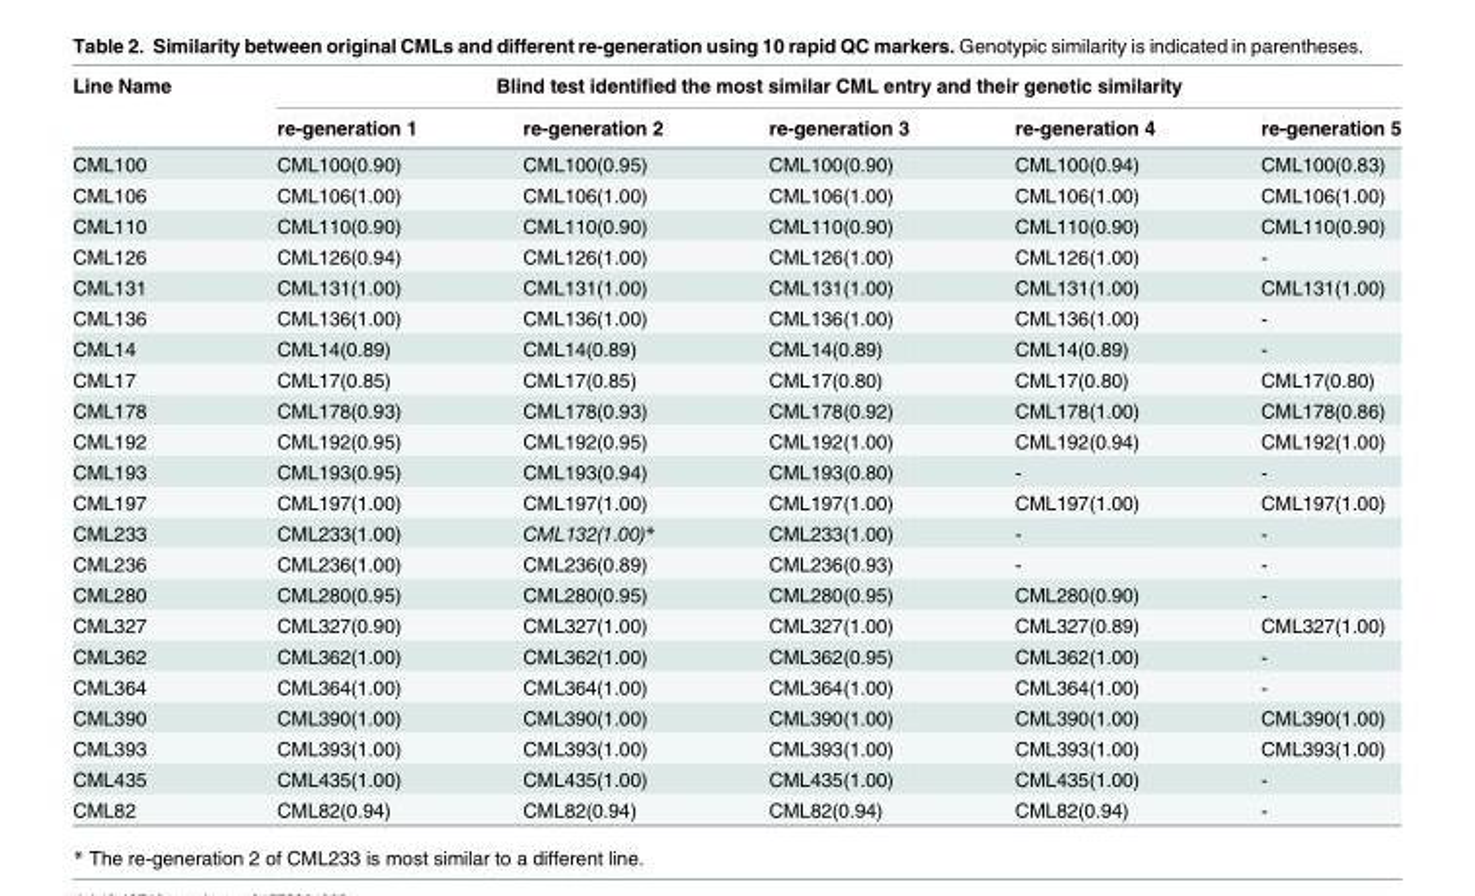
<table><thead><tr><td rowspan="2">Line Name</td><td colspan="5">Blind test identified the most similar CML entry and their genetic similarity</td></tr><tr><td>re-generation 1</td><td>re-generation 2</td><td>re-generation 3</td><td>re-generation 4</td><td>re-generation 5</td></tr></thead><tbody><tr><td>CML100</td><td>CML100(0.90)</td><td>CML100(0.95)</td><td>CML100(0.90)</td><td>CML100(0.94)</td><td>CML100(0.83)</td></tr><tr><td>CML106</td><td>CML106(1.00)</td><td>CML106(1.00)</td><td>CML106(1.00)</td><td>CML106(1.00)</td><td>CML106(1.00)</td></tr><tr><td>CML110</td><td>CML110(0.90)</td><td>CML110(0.90)</td><td>CML110(0.90)</td><td>CML110(0.90)</td><td>CML110(0.90)</td></tr><tr><td>CML126</td><td>CML126(0.94)</td><td>CML126(1.00)</td><td>CML126(1.00)</td><td>CML126(1.00)</td><td>-</td></tr><tr><td>CML131</td><td>CML131(1.00)</td><td>CML131(1.00)</td><td>CML131(1.00)</td><td>CML131(1.00)</td><td>CML131(1.00)</td></tr><tr><td>CML136</td><td>CML136(1.00)</td><td>CML136(1.00)</td><td>CML136(1.00)</td><td>CML136(1.00)</td><td>-</td></tr><tr><td>CML14</td><td>CML14(0.89)</td><td>CML14(0.89)</td><td>CML14(0.89)</td><td>CML14(0.89)</td><td>-</td></tr><tr><td>CML17</td><td>CML17(0.85)</td><td>CML17(0.85)</td><td>CML17(0.80)</td><td>CML17(0.80)</td><td>CML17(0.80)</td></tr><tr><td>CML178</td><td>CML178(0.93)</td><td>CML178(0.93)</td><td>CML178(0.92)</td><td>CML178(1.00)</td><td>CML178(0.86)</td></tr><tr><td>CML192</td><td>CML192(0.95)</td><td>CML192(0.95)</td><td>CML192(1.00)</td><td>CML192(0.94)</td><td>CML192(1.00)</td></tr><tr><td>CML193</td><td>CML193(0.95)</td><td>CML193(0.94)</td><td>CML193(0.80)</td><td>-</td><td>-</td></tr><tr><td>CML197</td><td>CML197(1.00)</td><td>CML197(1.00)</td><td>CML197(1.00)</td><td>CML197(1.00)</td><td>CML197(1.00)</td></tr><tr><td>CML233</td><td>CML233(1.00)</td><td>CML132(1.00)*</td><td>CML233(1.00)</td><td>-</td><td>-</td></tr><tr><td>CML236</td><td>CML236(1.00)</td><td>CML236(0.89)</td><td>CML236(0.93)</td><td>-</td><td>-</td></tr><tr><td>CML280</td><td>CML280(0.95)</td><td>CML280(0.95)</td><td>CML280(0.95)</td><td>CML280(0.90)</td><td>-</td></tr><tr><td>CML327</td><td>CML327(0.90)</td><td>CML327(1.00)</td><td>CML327(1.00)</td><td>CML327(0.89)</td><td>CML327(1.00)</td></tr><tr><td>CML362</td><td>CML362(1.00)</td><td>CML362(1.00)</td><td>CML362(0.95)</td><td>CML362(1.00)</td><td>-</td></tr><tr><td>CML364</td><td>CML364(1.00)</td><td>CML364(1.00)</td><td>CML364(1.00)</td><td>CML364(1.00)</td><td>-</td></tr><tr><td>CML390</td><td>CML390(1.00)</td><td>CML390(1.00)</td><td>CML390(1.00)</td><td>CML390(1.00)</td><td>CML390(1.00)</td></tr><tr><td>CML393</td><td>CML393(1.00)</td><td>CML393(1.00)</td><td>CML393(1.00)</td><td>CML393(1.00)</td><td>CML393(1.00)</td></tr><tr><td>CML435</td><td>CML435(1.00)</td><td>CML435(1.00)</td><td>CML435(1.00)</td><td>CML435(1.00)</td><td>-</td></tr><tr><td>CML82</td><td>CML82(0.94)</td><td>CML82(0.94)</td><td>CML82(0.94)</td><td>CML82(0.94)</td><td>-</td></tr></tbody></table>